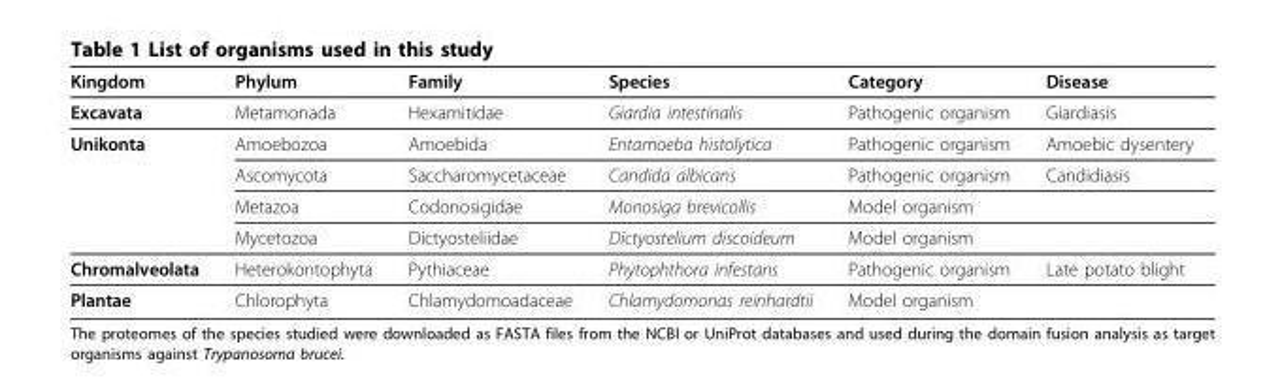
<table><thead><tr><td>Kingdom</td><td>Phylum</td><td>Family</td><td>Species</td><td>Category</td><td>Disease</td></tr></thead><tbody><tr><td>Excavata</td><td>Metamonada</td><td>Hexamitidae</td><td>Giardia intestinalis</td><td>Pathogenic organism</td><td>Giardiasis</td></tr><tr><td rowspan="4">Unikonta</td><td>Amoebozoa</td><td>Amoebida</td><td>Entamoeba histolytica</td><td>Pathogenic organism</td><td>Amoebic dysentery</td></tr><tr><td>Ascomycota</td><td>Saccharomycetaceae</td><td>Candida albicans</td><td>Pathogenic organism</td><td>Candidiasis</td></tr><tr><td>Metazoa</td><td>Codonosigidae</td><td>Monosiga brevicollis</td><td>Model organism</td><td></td></tr><tr><td>Mycetozoa</td><td>Dictyosteliidae</td><td>Dictyostelium discoideum</td><td>Model organism</td><td></td></tr><tr><td>Chromalveolata</td><td>Heterokontophyta</td><td>Pythiaceae</td><td>Phytophthora infestans</td><td>Pathogenic organism</td><td>Late potato blight</td></tr><tr><td>Plantae</td><td>Chlorophyta</td><td>Chlamydomoadaceae</td><td>Chlamydomonas reinhardtii</td><td>Model organism</td><td></td></tr></tbody></table>